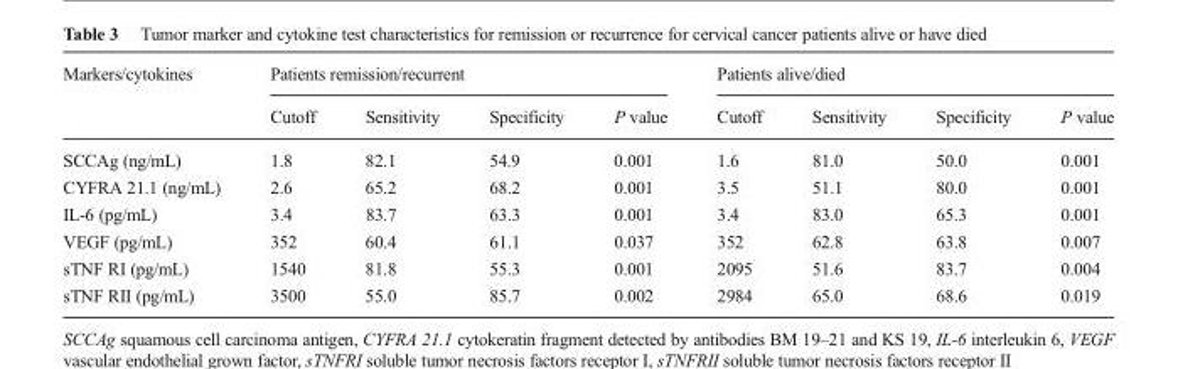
<table><thead><tr><td rowspan="2">Markers/cytokines</td><td colspan="4">Patients remission/recurrent</td><td colspan="4">Patients alive/died</td></tr><tr><td>Cutoff</td><td>Sensitivity</td><td>Specificity</td><td>P value</td><td>Cutoff</td><td>Sensitivity</td><td>Specificity</td><td>P value</td></tr></thead><tbody><tr><td>SCCAg (ng/mL)</td><td>1.8</td><td>82.1</td><td>54.9</td><td>0.001</td><td>1.6</td><td>81.0</td><td>50.0</td><td>0.001</td></tr><tr><td>CYFRA 21.1 (ng/mL)</td><td>2.6</td><td>65.2</td><td>68.2</td><td>0.001</td><td>3.5</td><td>51.1</td><td>80.0</td><td>0.001</td></tr><tr><td>IL-6 (pg/mL)</td><td>3.4</td><td>83.7</td><td>63.3</td><td>0.001</td><td>3.4</td><td>83.0</td><td>65.3</td><td>0.001</td></tr><tr><td>VEGF (pg/mL)</td><td>352</td><td>60.4</td><td>61.1</td><td>0.037</td><td>352</td><td>62.8</td><td>63.8</td><td>0.007</td></tr><tr><td>sTNF RI (pg/mL)</td><td>1540</td><td>81.8</td><td>55.3</td><td>0.001</td><td>2095</td><td>51.6</td><td>83.7</td><td>0.004</td></tr><tr><td>sTNF RII (pg/mL)</td><td>3500</td><td>55.0</td><td>85.7</td><td>0.002</td><td>2984</td><td>65.0</td><td>68.6</td><td>0.019</td></tr></tbody></table>